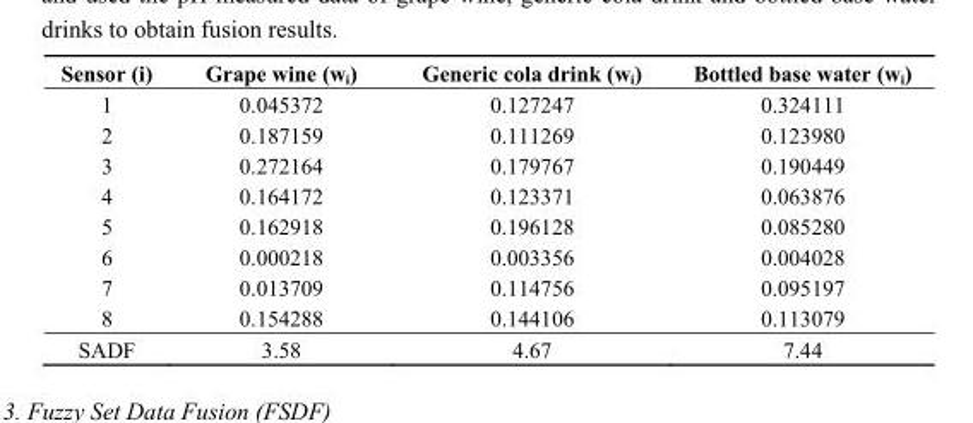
<table><thead><tr><td>Sensor (i)</td><td>Grape wine (w<sub>i</sub>)</td><td>Generic cola drink (w<sub>i</sub>)</td><td>Bottled base water (w<sub>i</sub>)</td></tr></thead><tbody><tr><td>1</td><td>0.045372</td><td>0.127247</td><td>0.324111</td></tr><tr><td>2</td><td>0.187159</td><td>0.111269</td><td>0.123980</td></tr><tr><td>3</td><td>0.272164</td><td>0.179767</td><td>0.190449</td></tr><tr><td>4</td><td>0.164172</td><td>0.123371</td><td>0.063876</td></tr><tr><td>5</td><td>0.162918</td><td>0.196128</td><td>0.085280</td></tr><tr><td>6</td><td>0.000218</td><td>0.003356</td><td>0.004028</td></tr><tr><td>7</td><td>0.013709</td><td>0.114756</td><td>0.095197</td></tr><tr><td>8</td><td>0.154288</td><td>0.144106</td><td>0.113079</td></tr><tr><td>SADF</td><td>3.58</td><td>4.67</td><td>7.44</td></tr></tbody></table>